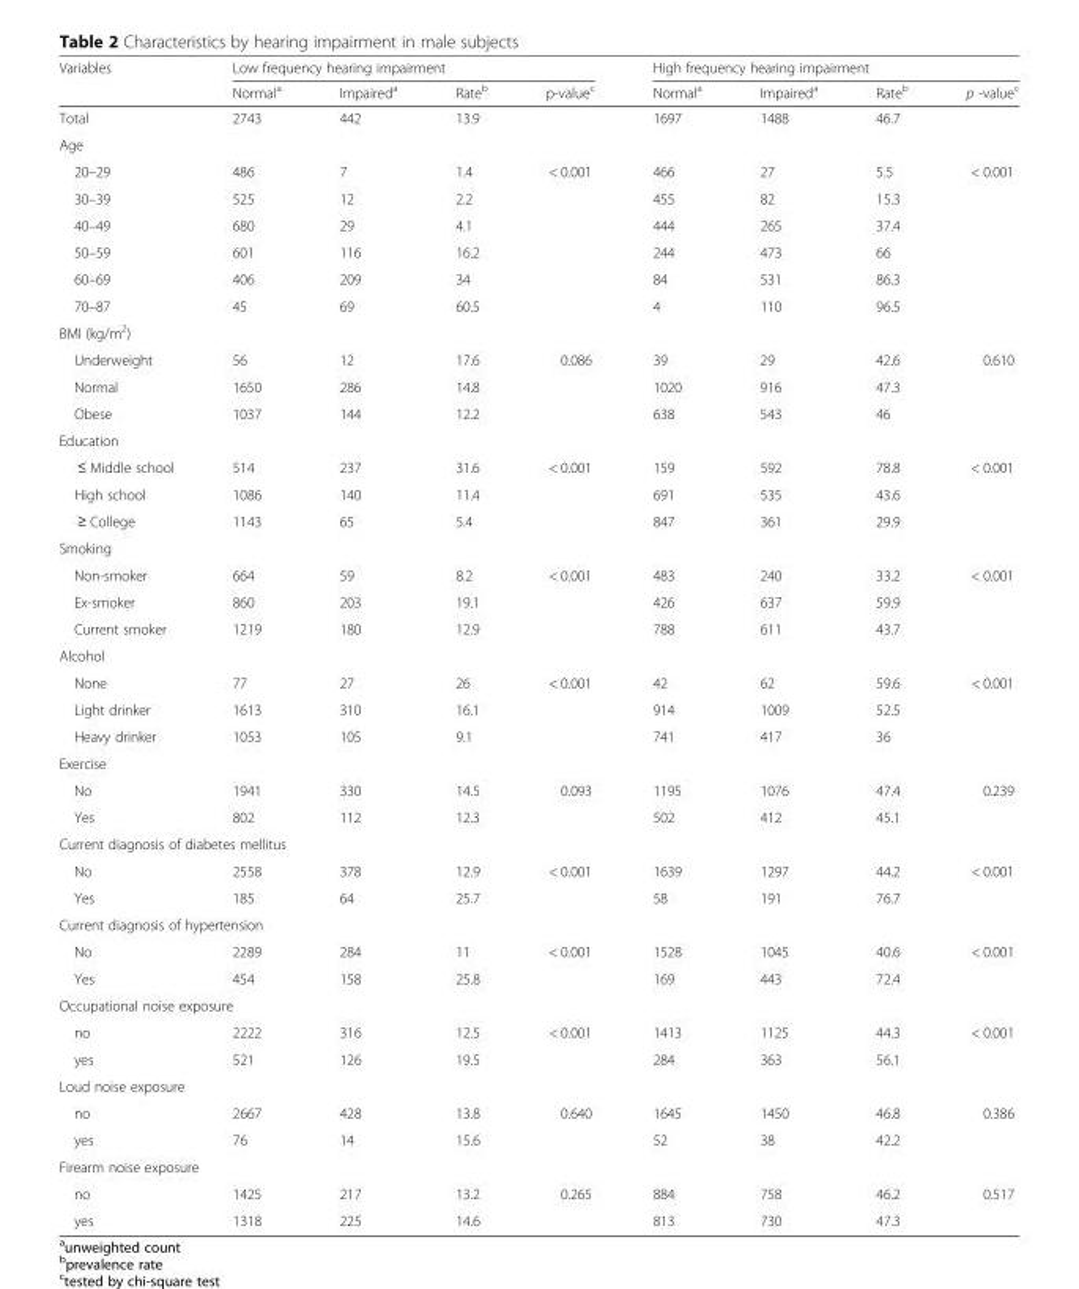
<table><thead><tr><td rowspan="2">Variables</td><td colspan="4">Low frequency hearing impairment</td><td colspan="4">High frequency hearing impairment</td></tr><tr><td>Normal<sup>a</sup></td><td>Impaired<sup>a</sup></td><td>Rate<sup>b</sup></td><td>p-value<sup>c</sup></td><td>Normal<sup>a</sup></td><td>Impaired<sup>a</sup></td><td>Rate<sup>b</sup></td><td>p -value<sup>c</sup></td></tr></thead><tbody><tr><td>Total</td><td>2743</td><td>442</td><td>13.9</td><td></td><td>1697</td><td>1488</td><td>46.7</td><td></td></tr><tr><td colspan="9">Age</td></tr><tr><td>20–29</td><td>486</td><td>7</td><td>1.4</td><td>&lt; 0.001</td><td>466</td><td>27</td><td>5.5</td><td>&lt; 0.001</td></tr><tr><td>30–39</td><td>525</td><td>12</td><td>2.2</td><td></td><td>455</td><td>82</td><td>15.3</td><td></td></tr><tr><td>40–49</td><td>680</td><td>29</td><td>4.1</td><td></td><td>444</td><td>265</td><td>37.4</td><td></td></tr><tr><td>50–59</td><td>601</td><td>116</td><td>16.2</td><td></td><td>244</td><td>473</td><td>66</td><td></td></tr><tr><td>60–69</td><td>406</td><td>209</td><td>34</td><td></td><td>84</td><td>531</td><td>86.3</td><td></td></tr><tr><td>70–87</td><td>45</td><td>69</td><td>60.5</td><td></td><td>4</td><td>110</td><td>96.5</td><td></td></tr><tr><td colspan="9">BMI (kg/m<sup>2</sup>)</td></tr><tr><td>Underweight</td><td>56</td><td>12</td><td>17.6</td><td>0.086</td><td>39</td><td>29</td><td>42.6</td><td>0.610</td></tr><tr><td>Normal</td><td>1650</td><td>286</td><td>14.8</td><td></td><td>1020</td><td>916</td><td>47.3</td><td></td></tr><tr><td>Obese</td><td>1037</td><td>144</td><td>12.2</td><td></td><td>638</td><td>543</td><td>46</td><td></td></tr><tr><td colspan="9">Education</td></tr><tr><td>≤ Middle school</td><td>514</td><td>237</td><td>31.6</td><td>&lt; 0.001</td><td>159</td><td>592</td><td>78.8</td><td>&lt; 0.001</td></tr><tr><td>High school</td><td>1086</td><td>140</td><td>11.4</td><td></td><td>691</td><td>535</td><td>43.6</td><td></td></tr><tr><td>≥ College</td><td>1143</td><td>65</td><td>5.4</td><td></td><td>847</td><td>361</td><td>29.9</td><td></td></tr><tr><td colspan="9">Smoking</td></tr><tr><td>Non-smoker</td><td>664</td><td>59</td><td>8.2</td><td>&lt; 0.001</td><td>483</td><td>240</td><td>33.2</td><td>&lt; 0.001</td></tr><tr><td>Ex-smoker</td><td>860</td><td>203</td><td>19.1</td><td></td><td>426</td><td>637</td><td>59.9</td><td></td></tr><tr><td>Current smoker</td><td>1219</td><td>180</td><td>12.9</td><td></td><td>788</td><td>611</td><td>43.7</td><td></td></tr><tr><td colspan="9">Alcohol</td></tr><tr><td>None</td><td>77</td><td>27</td><td>26</td><td>&lt; 0.001</td><td>42</td><td>62</td><td>59.6</td><td>&lt; 0.001</td></tr><tr><td>Light drinker</td><td>1613</td><td>310</td><td>16.1</td><td></td><td>914</td><td>1009</td><td>52.5</td><td></td></tr><tr><td>Heavy drinker</td><td>1053</td><td>105</td><td>9.1</td><td></td><td>741</td><td>417</td><td>36</td><td></td></tr><tr><td colspan="9">Exercise</td></tr><tr><td>No</td><td>1941</td><td>330</td><td>14.5</td><td>0.093</td><td>1195</td><td>1076</td><td>47.4</td><td>0.239</td></tr><tr><td>Yes</td><td>802</td><td>112</td><td>12.3</td><td></td><td>502</td><td>412</td><td>45.1</td><td></td></tr><tr><td colspan="9">Current diagnosis of diabetes mellitus</td></tr><tr><td>No</td><td>2558</td><td>378</td><td>12.9</td><td>&lt; 0.001</td><td>1639</td><td>1297</td><td>44.2</td><td>&lt; 0.001</td></tr><tr><td>Yes</td><td>185</td><td>64</td><td>25.7</td><td></td><td>58</td><td>191</td><td>76.7</td><td></td></tr><tr><td colspan="9">Current diagnosis of hypertension</td></tr><tr><td>No</td><td>2289</td><td>284</td><td>11</td><td>&lt; 0.001</td><td>1528</td><td>1045</td><td>40.6</td><td>&lt; 0.001</td></tr><tr><td>Yes</td><td>454</td><td>158</td><td>25.8</td><td></td><td>169</td><td>443</td><td>72.4</td><td></td></tr><tr><td colspan="9">Occupational noise exposure</td></tr><tr><td>no</td><td>2222</td><td>316</td><td>12.5</td><td>&lt; 0.001</td><td>1413</td><td>1125</td><td>44.3</td><td>&lt; 0.001</td></tr><tr><td>yes</td><td>521</td><td>126</td><td>19.5</td><td></td><td>284</td><td>363</td><td>56.1</td><td></td></tr><tr><td colspan="9">Loud noise exposure</td></tr><tr><td>no</td><td>2667</td><td>428</td><td>13.8</td><td>0.640</td><td>1645</td><td>1450</td><td>46.8</td><td>0.386</td></tr><tr><td>yes</td><td>76</td><td>14</td><td>15.6</td><td></td><td>52</td><td>38</td><td>42.2</td><td></td></tr><tr><td colspan="9">Firearm noise exposure</td></tr><tr><td>no</td><td>1425</td><td>217</td><td>13.2</td><td>0.265</td><td>884</td><td>758</td><td>46.2</td><td>0.517</td></tr><tr><td>yes</td><td>1318</td><td>225</td><td>14.6</td><td></td><td>813</td><td>730</td><td>47.3</td><td></td></tr></tbody></table>